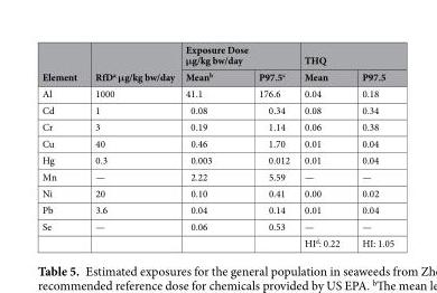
<table><thead><tr><td rowspan="2">Element</td><td rowspan="2">RfD<sup>a</sup> μg/kg bw/day</td><td colspan="2">Exposure Dose μg/kg bw/day</td><td colspan="2">THQ</td></tr><tr><td>Mean<sup>b</sup></td><td>P97.5<sup>c</sup></td><td>Mean</td><td>P97.5</td></tr></thead><tbody><tr><td>Al</td><td>1000</td><td>41.1</td><td>176.6</td><td>0.04</td><td>0.18</td></tr><tr><td>Cd</td><td>1</td><td>0.08</td><td>0.34</td><td>0.08</td><td>0.34</td></tr><tr><td>Cr</td><td>3</td><td>0.19</td><td>1.14</td><td>0.06</td><td>0.38</td></tr><tr><td>Cu</td><td>40</td><td>0.46</td><td>1.70</td><td>0.01</td><td>0.04</td></tr><tr><td>Hg</td><td>0.3</td><td>0.003</td><td>0.012</td><td>0.01</td><td>0.04</td></tr><tr><td>Mn</td><td>—</td><td>2.22</td><td>5.59</td><td>—</td><td>—</td></tr><tr><td>Ni</td><td>20</td><td>0.10</td><td>0.41</td><td>0.00</td><td>0.02</td></tr><tr><td>Pb</td><td>3.6</td><td>0.04</td><td>0.14</td><td>0.01</td><td>0.04</td></tr><tr><td rowspan="2">Se</td><td>—</td><td>0.06</td><td>0.53</td><td>—</td><td>—</td></tr><tr><td></td><td></td><td></td><td>HI<sup>d</sup>: 0.22</td><td>HI: 1.05</td></tr></tbody></table>